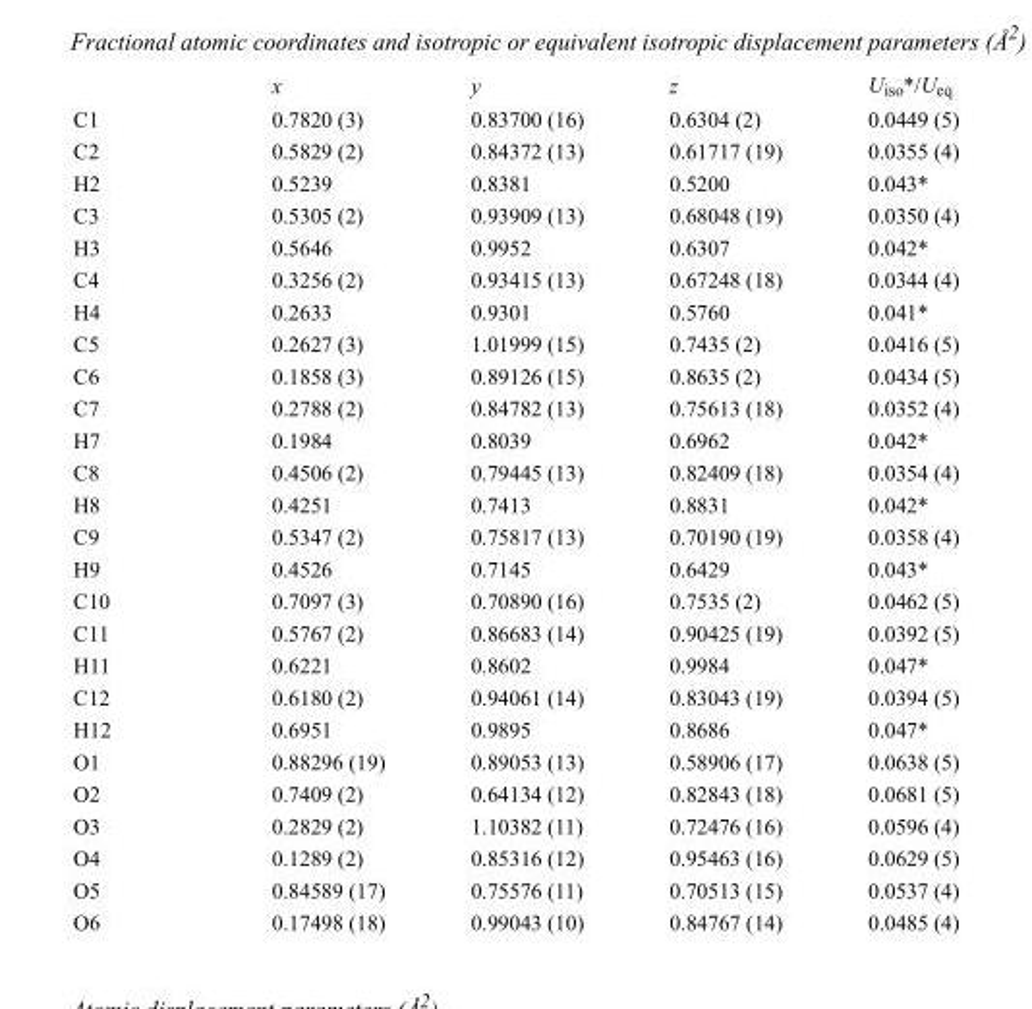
<table><thead><tr><td></td><td>x</td><td>y</td><td>z</td><td>U<sub>iso</sub>*/U<sub>eq</sub></td></tr></thead><tbody><tr><td>C1</td><td>0.7820 (3)</td><td>0.83700 (16)</td><td>0.6304 (2)</td><td>0.0449 (5)</td></tr><tr><td>C2</td><td>0.5829 (2)</td><td>0.84372 (13)</td><td>0.61717 (19)</td><td>0.0355 (4)</td></tr><tr><td>H2</td><td>0.5239</td><td>0.8381</td><td>0.5200</td><td>0.043*</td></tr><tr><td>C3</td><td>0.5305 (2)</td><td>0.93909 (13)</td><td>0.68048 (19)</td><td>0.0350 (4)</td></tr><tr><td>H3</td><td>0.5646</td><td>0.9952</td><td>0.6307</td><td>0.042*</td></tr><tr><td>C4</td><td>0.3256 (2)</td><td>0.93415 (13)</td><td>0.67248 (18)</td><td>0.0344 (4)</td></tr><tr><td>H4</td><td>0.2633</td><td>0.9301</td><td>0.5760</td><td>0.041*</td></tr><tr><td>C5</td><td>0.2627 (3)</td><td>1.01999 (15)</td><td>0.7435 (2)</td><td>0.0416 (5)</td></tr><tr><td>C6</td><td>0.1858 (3)</td><td>0.89126 (15)</td><td>0.8635 (2)</td><td>0.0434 (5)</td></tr><tr><td>C7</td><td>0.2788 (2)</td><td>0.84782 (13)</td><td>0.75613 (18)</td><td>0.0352 (4)</td></tr><tr><td>H7</td><td>0.1984</td><td>0.8039</td><td>0.6962</td><td>0.042*</td></tr><tr><td>C8</td><td>0.4506 (2)</td><td>0.79445 (13)</td><td>0.82409 (18)</td><td>0.0354 (4)</td></tr><tr><td>H8</td><td>0.4251</td><td>0.7413</td><td>0.8831</td><td>0.042*</td></tr><tr><td>C9</td><td>0.5347 (2)</td><td>0.75817 (13)</td><td>0.70190 (19)</td><td>0.0358 (4)</td></tr><tr><td>H9</td><td>0.4526</td><td>0.7145</td><td>0.6429</td><td>0.043*</td></tr><tr><td>C10</td><td>0.7097 (3)</td><td>0.70890 (16)</td><td>0.7535 (2)</td><td>0.0462 (5)</td></tr><tr><td>C11</td><td>0.5767 (2)</td><td>0.86683 (14)</td><td>0.90425 (19)</td><td>0.0392 (5)</td></tr><tr><td>H11</td><td>0.6221</td><td>0.8602</td><td>0.9984</td><td>0.047*</td></tr><tr><td>C12</td><td>0.6180 (2)</td><td>0.94061 (14)</td><td>0.83043 (19)</td><td>0.0394 (5)</td></tr><tr><td>H12</td><td>0.6951</td><td>0.9895</td><td>0.8686</td><td>0.047*</td></tr><tr><td>O1</td><td>0.88296 (19)</td><td>0.89053 (13)</td><td>0.58906 (17)</td><td>0.0638 (5)</td></tr><tr><td>O2</td><td>0.7409 (2)</td><td>0.64134 (12)</td><td>0.82843 (18)</td><td>0.0681 (5)</td></tr><tr><td>O3</td><td>0.2829 (2)</td><td>1.10382 (11)</td><td>0.72476 (16)</td><td>0.0596 (4)</td></tr><tr><td>O4</td><td>0.1289 (2)</td><td>0.85316 (12)</td><td>0.95463 (16)</td><td>0.0629 (5)</td></tr><tr><td>O5</td><td>0.84589 (17)</td><td>0.75576 (11)</td><td>0.70513 (15)</td><td>0.0537 (4)</td></tr><tr><td>O6</td><td>0.17498 (18)</td><td>0.99043 (10)</td><td>0.84767 (14)</td><td>0.0485 (4)</td></tr></tbody></table>